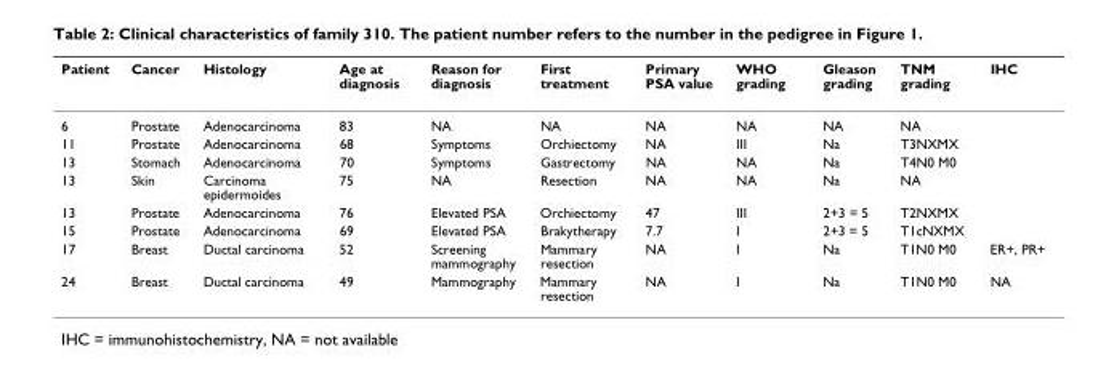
<table><thead><tr><td>Patient</td><td>Cancer</td><td>Histology</td><td>Age at diagnosis</td><td>Reason for diagnosis</td><td>First treatment</td><td>Primary PSA value</td><td>WHO grading</td><td>Gleason grading</td><td>TNM grading</td><td>IHC</td></tr></thead><tbody><tr><td>6</td><td>Prostate</td><td>Adenocarcinoma</td><td>83</td><td>NA</td><td>NA</td><td>NA</td><td>NA</td><td>NA</td><td>NA</td><td></td></tr><tr><td>11</td><td>Prostate</td><td>Adenocarcinoma</td><td>68</td><td>Symptoms</td><td>Orchiectomy</td><td>NA</td><td>III</td><td>Na</td><td>T3NXMX</td><td></td></tr><tr><td>13</td><td>Stomach</td><td>Adenocarcinoma</td><td>70</td><td>Symptoms</td><td>Gastrectomy</td><td>NA</td><td>NA</td><td>Na</td><td>T4N0 M0</td><td></td></tr><tr><td>13</td><td>Skin</td><td>Carcinoma epidermoides</td><td>75</td><td>NA</td><td>Resection</td><td>NA</td><td>NA</td><td>Na</td><td>NA</td><td></td></tr><tr><td>13</td><td>Prostate</td><td>Adenocarcinoma</td><td>76</td><td>Elevated PSA</td><td>Orchiectomy</td><td>47</td><td>III</td><td>2+3 = 5</td><td>T2NXMX</td><td></td></tr><tr><td>15</td><td>Prostate</td><td>Adenocarcinoma</td><td>69</td><td>Elevated PSA</td><td>Brakytherapy</td><td>7.7</td><td>I</td><td>2+3 = 5</td><td>T1cNXMX</td><td></td></tr><tr><td>17</td><td>Breast</td><td>Ductal carcinoma</td><td>52</td><td>Screening mammography</td><td>Mammary resection</td><td>NA</td><td>I</td><td>Na</td><td>T1N0 M0</td><td>ER+, PR+</td></tr><tr><td>24</td><td>Breast</td><td>Ductal carcinoma</td><td>49</td><td>Mammography</td><td>Mammary resection</td><td>NA</td><td>I</td><td>Na</td><td>T1N0 M0</td><td>NA</td></tr></tbody></table>